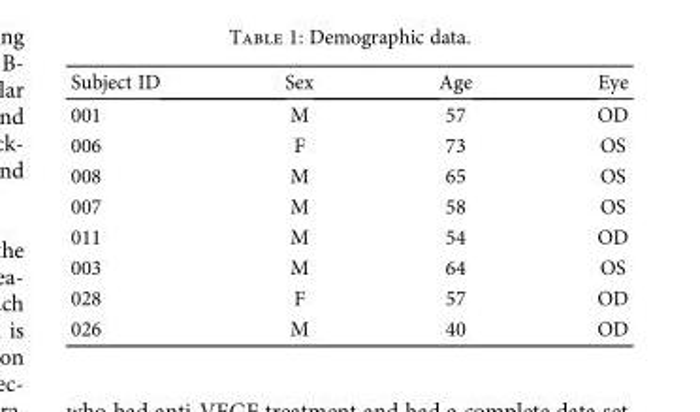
<table><thead><tr><td>Subject ID</td><td>Sex</td><td>Age</td><td>Eye</td></tr></thead><tbody><tr><td>001</td><td>M</td><td>57</td><td>OD</td></tr><tr><td>006</td><td>F</td><td>73</td><td>OS</td></tr><tr><td>008</td><td>M</td><td>65</td><td>OS</td></tr><tr><td>007</td><td>M</td><td>58</td><td>OS</td></tr><tr><td>011</td><td>M</td><td>54</td><td>OD</td></tr><tr><td>003</td><td>M</td><td>64</td><td>OS</td></tr><tr><td>028</td><td>F</td><td>57</td><td>OD</td></tr><tr><td>026</td><td>M</td><td>40</td><td>OD</td></tr></tbody></table>